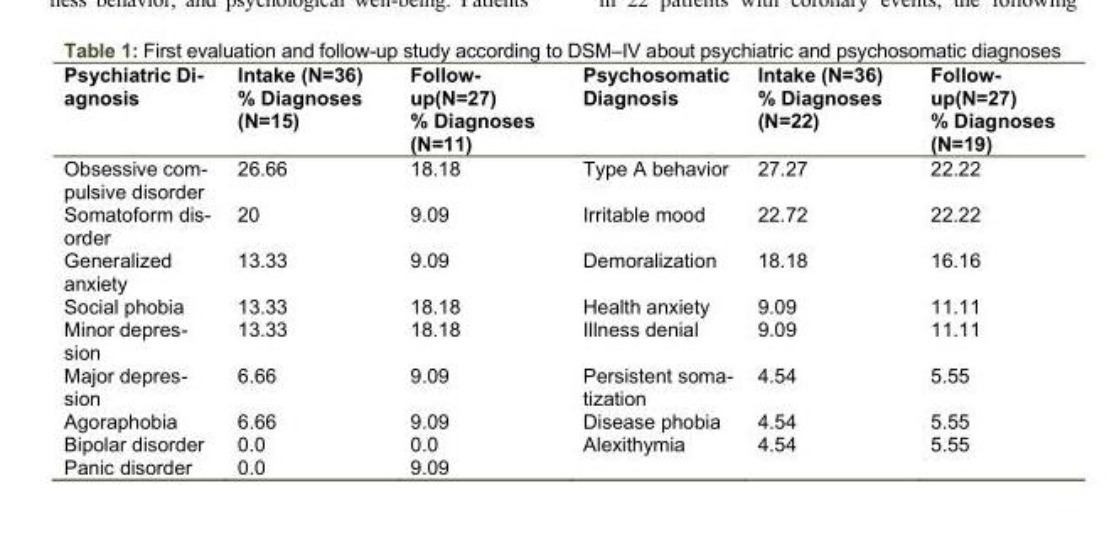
<table><thead><tr><td>Psychiatric Di- agnosis</td><td>Intake (N=36) % Diagnoses (N=15)</td><td>Follow- up(N=27) % Diagnoses (N=11)</td><td>Psychosomatic Diagnosis</td><td>Intake (N=36) % Diagnoses (N=22)</td><td>Follow- up(N=27) % Diagnoses (N=19)</td></tr></thead><tbody><tr><td>Obsessive com- pulsive disorder</td><td>26.66</td><td>18.18</td><td>Type A behavior</td><td>27.27</td><td>22.22</td></tr><tr><td>Somatoform dis- order</td><td>20</td><td>9.09</td><td>Irritable mood</td><td>22.72</td><td>22.22</td></tr><tr><td>Generalized anxiety</td><td>13.33</td><td>9.09</td><td>Demoralization</td><td>18.18</td><td>16.16</td></tr><tr><td>Social phobia</td><td>13.33</td><td>18.18</td><td>Health anxiety</td><td>9.09</td><td>11.11</td></tr><tr><td>Minor depres- sion</td><td>13.33</td><td>18.18</td><td>Illness denial</td><td>9.09</td><td>11.11</td></tr><tr><td>Major depres- sion</td><td>6.66</td><td>9.09</td><td>Persistent soma- tization</td><td>4.54</td><td>5.55</td></tr><tr><td>Agoraphobia</td><td>6.66</td><td>9.09</td><td>Disease phobia</td><td>4.54</td><td>5.55</td></tr><tr><td>Bipolar disorder</td><td>0.0</td><td>0.0</td><td>Alexithymia</td><td>4.54</td><td>5.55</td></tr><tr><td>Panic disorder</td><td>0.0</td><td>9.09</td><td></td><td></td><td></td></tr></tbody></table>